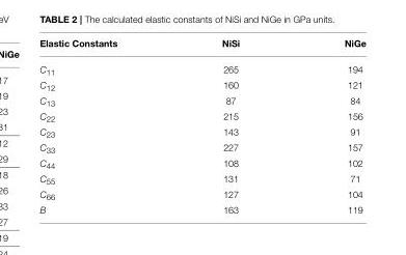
<table><thead><tr><td>Elastic Constants</td><td>NiSi</td><td>NiGe</td></tr></thead><tbody><tr><td>C<sub>11</sub></td><td>265</td><td>194</td></tr><tr><td>C<sub>12</sub></td><td>160</td><td>121</td></tr><tr><td>C<sub>13</sub></td><td>87</td><td>84</td></tr><tr><td>C<sub>22</sub></td><td>215</td><td>156</td></tr><tr><td>C<sub>23</sub></td><td>143</td><td>91</td></tr><tr><td>C<sub>33</sub></td><td>227</td><td>157</td></tr><tr><td>C<sub>44</sub></td><td>108</td><td>102</td></tr><tr><td>C<sub>55</sub></td><td>131</td><td>71</td></tr><tr><td>C<sub>66</sub></td><td>127</td><td>104</td></tr><tr><td>B</td><td>163</td><td>119</td></tr></tbody></table>